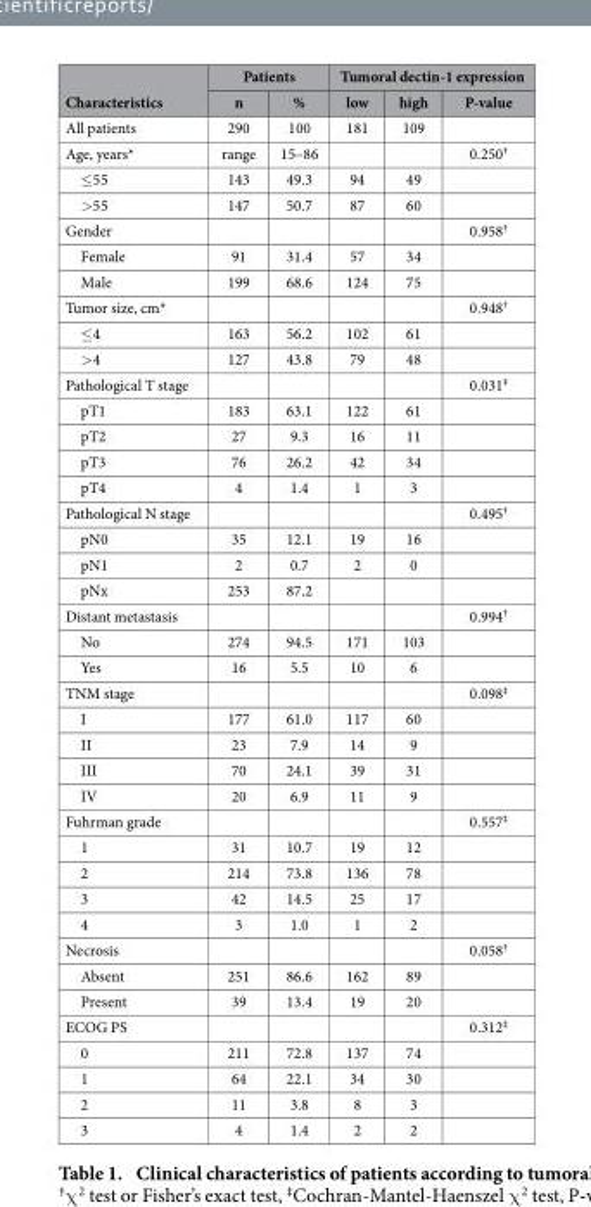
<table><thead><tr><td rowspan="2">Characteristics</td><td colspan="2">Patients</td><td colspan="3">Tumoral dectin-1 expression</td></tr><tr><td>n</td><td>%</td><td>low</td><td>high</td><td>P-value</td></tr></thead><tbody><tr><td>All patients</td><td>290</td><td>100</td><td>181</td><td>109</td><td></td></tr><tr><td>Age, years*</td><td>range</td><td>15–86</td><td></td><td></td><td>0.250<sup>†</sup></td></tr><tr><td>≤ 55</td><td>143</td><td>49.3</td><td>94</td><td>49</td><td></td></tr><tr><td>&gt; 55</td><td>147</td><td>50.7</td><td>87</td><td>60</td><td></td></tr><tr><td>Gender</td><td></td><td></td><td></td><td></td><td>0.958<sup>†</sup></td></tr><tr><td>Female</td><td>91</td><td>31.4</td><td>57</td><td>34</td><td></td></tr><tr><td>Male</td><td>199</td><td>68.6</td><td>124</td><td>75</td><td></td></tr><tr><td>Tumor size, cm*</td><td></td><td></td><td></td><td></td><td>0.948<sup>†</sup></td></tr><tr><td>≤ 4</td><td>163</td><td>56.2</td><td>102</td><td>61</td><td></td></tr><tr><td>&gt; 4</td><td>127</td><td>43.8</td><td>79</td><td>48</td><td></td></tr><tr><td>Pathological T stage</td><td></td><td></td><td></td><td></td><td>0.031<sup>‡</sup></td></tr><tr><td>pT1</td><td>183</td><td>63.1</td><td>122</td><td>61</td><td></td></tr><tr><td>pT2</td><td>27</td><td>9.3</td><td>16</td><td>11</td><td></td></tr><tr><td>pT3</td><td>76</td><td>26.2</td><td>42</td><td>34</td><td></td></tr><tr><td>pT4</td><td>4</td><td>1.4</td><td>1</td><td>3</td><td></td></tr><tr><td>Pathological N stage</td><td></td><td></td><td></td><td></td><td>0.495<sup>†</sup></td></tr><tr><td>pN0</td><td>35</td><td>12.1</td><td>19</td><td>16</td><td></td></tr><tr><td>pN1</td><td>2</td><td>0.7</td><td>2</td><td>0</td><td></td></tr><tr><td>pNx</td><td>253</td><td>87.2</td><td></td><td></td><td></td></tr><tr><td>Distant metastasis</td><td></td><td></td><td></td><td></td><td>0.994<sup>†</sup></td></tr><tr><td>No</td><td>274</td><td>94.5</td><td>171</td><td>103</td><td></td></tr><tr><td>Yes</td><td>16</td><td>5.5</td><td>10</td><td>6</td><td></td></tr><tr><td>TNM stage</td><td></td><td></td><td></td><td></td><td>0.098<sup>‡</sup></td></tr><tr><td>I</td><td>177</td><td>61.0</td><td>117</td><td>60</td><td></td></tr><tr><td>II</td><td>23</td><td>7.9</td><td>14</td><td>9</td><td></td></tr><tr><td>III</td><td>70</td><td>24.1</td><td>39</td><td>31</td><td></td></tr><tr><td>IV</td><td>20</td><td>6.9</td><td>11</td><td>9</td><td></td></tr><tr><td>Fuhrman grade</td><td></td><td></td><td></td><td></td><td>0.557<sup>‡</sup></td></tr><tr><td>1</td><td>31</td><td>10.7</td><td>19</td><td>12</td><td></td></tr><tr><td>2</td><td>214</td><td>73.8</td><td>136</td><td>78</td><td></td></tr><tr><td>3</td><td>42</td><td>14.5</td><td>25</td><td>17</td><td></td></tr><tr><td>4</td><td>3</td><td>1.0</td><td>1</td><td>2</td><td></td></tr><tr><td>Necrosis</td><td></td><td></td><td></td><td></td><td>0.058<sup>†</sup></td></tr><tr><td>Absent</td><td>251</td><td>86.6</td><td>162</td><td>89</td><td></td></tr><tr><td>Present</td><td>39</td><td>13.4</td><td>19</td><td>20</td><td></td></tr><tr><td>ECOG PS</td><td></td><td></td><td></td><td></td><td>0.312<sup>‡</sup></td></tr><tr><td>0</td><td>211</td><td>72.8</td><td>137</td><td>74</td><td></td></tr><tr><td>1</td><td>64</td><td>22.1</td><td>34</td><td>30</td><td></td></tr><tr><td>2</td><td>11</td><td>3.8</td><td>8</td><td>3</td><td></td></tr><tr><td>3</td><td>4</td><td>1.4</td><td>2</td><td>2</td><td></td></tr></tbody></table>